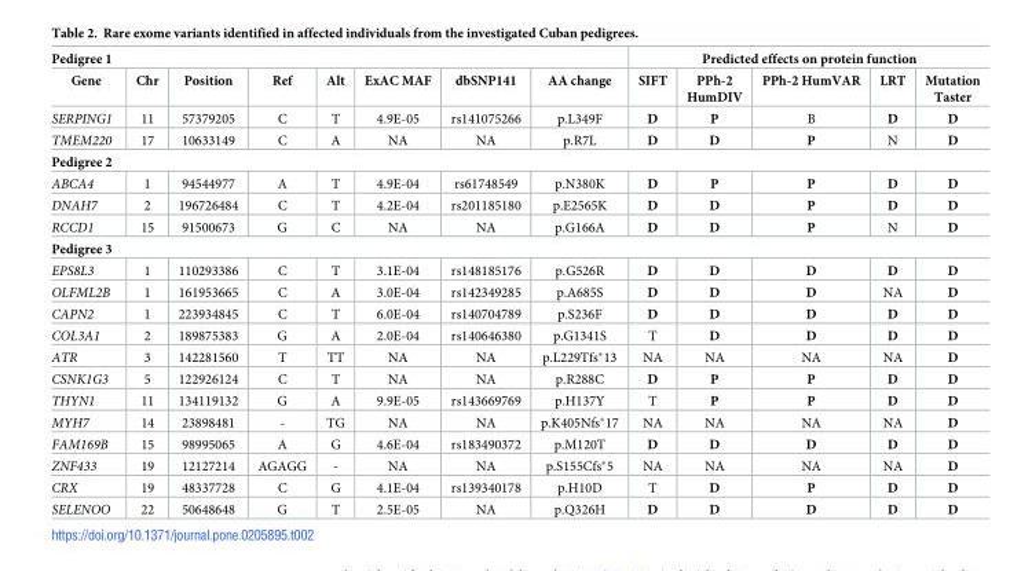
<table><thead><tr><td colspan="8">Pedigree 1</td><td colspan="5">Predicted effects on protein function</td></tr><tr><td>Gene</td><td>Chr</td><td>Position</td><td>Ref</td><td>Alt</td><td>ExAC MAF</td><td>dbSNP141</td><td>AA change</td><td>SIFT</td><td>PPh-2 HumDIV</td><td>PPh-2 HumVAR</td><td>LRT</td><td>Mutation Taster</td></tr></thead><tbody><tr><td>SERPING1</td><td>11</td><td>57379205</td><td>C</td><td>T</td><td>4.9E-05</td><td>rs141075266</td><td>p.L349F</td><td>D</td><td>P</td><td>B</td><td>D</td><td>D</td></tr><tr><td>TMEM220</td><td>17</td><td>10633149</td><td>C</td><td>A</td><td>NA</td><td>NA</td><td>p.R7L</td><td>D</td><td>D</td><td>P</td><td>N</td><td>D</td></tr><tr><td colspan="13">Pedigree 2</td></tr><tr><td>ABCA4</td><td>1</td><td>94544977</td><td>A</td><td>T</td><td>4.9E-04</td><td>rs61748549</td><td>p.N380K</td><td>D</td><td>P</td><td>P</td><td>D</td><td>D</td></tr><tr><td>DNAH7</td><td>2</td><td>196726484</td><td>C</td><td>T</td><td>4.2E-04</td><td>rs201185180</td><td>p.E2565K</td><td>D</td><td>D</td><td>P</td><td>D</td><td>D</td></tr><tr><td>RCCD1</td><td>15</td><td>91500673</td><td>G</td><td>C</td><td>NA</td><td>NA</td><td>p.G166A</td><td>D</td><td>D</td><td>P</td><td>N</td><td>D</td></tr><tr><td colspan="13">Pedigree 3</td></tr><tr><td>EPS8L3</td><td>1</td><td>110293386</td><td>C</td><td>T</td><td>3.1E-04</td><td>rs148185176</td><td>p.G526R</td><td>D</td><td>D</td><td>D</td><td>D</td><td>D</td></tr><tr><td>OLFML2B</td><td>1</td><td>161953665</td><td>C</td><td>A</td><td>3.0E-04</td><td>rs142349285</td><td>p.A685S</td><td>D</td><td>D</td><td>D</td><td>NA</td><td>D</td></tr><tr><td>CAPN2</td><td>1</td><td>223934845</td><td>C</td><td>T</td><td>6.0E-04</td><td>rs140704789</td><td>p.S236F</td><td>D</td><td>D</td><td>D</td><td>D</td><td>D</td></tr><tr><td>COL3A1</td><td>2</td><td>189875383</td><td>G</td><td>A</td><td>2.0E-04</td><td>rs140646380</td><td>p.G1341S</td><td>T</td><td>D</td><td>D</td><td>D</td><td>D</td></tr><tr><td>ATR</td><td>3</td><td>142281560</td><td>T</td><td>TT</td><td>NA</td><td>NA</td><td>p.L229Tfs*13</td><td>NA</td><td>NA</td><td>NA</td><td>NA</td><td>D</td></tr><tr><td>CSNK1G3</td><td>5</td><td>122926124</td><td>C</td><td>T</td><td>NA</td><td>NA</td><td>p.R288C</td><td>D</td><td>P</td><td>P</td><td>D</td><td>D</td></tr><tr><td>THYN1</td><td>11</td><td>134119132</td><td>G</td><td>A</td><td>9.9E-05</td><td>rs143669769</td><td>p.H137Y</td><td>T</td><td>P</td><td>P</td><td>D</td><td>D</td></tr><tr><td>MYH7</td><td>14</td><td>23898481</td><td>-</td><td>TG</td><td>NA</td><td>NA</td><td>p.K405Nfs*17</td><td>NA</td><td>NA</td><td>NA</td><td>NA</td><td>D</td></tr><tr><td>FAM169B</td><td>15</td><td>98995065</td><td>A</td><td>G</td><td>4.6E-04</td><td>rs183490372</td><td>p.M120T</td><td>D</td><td>D</td><td>D</td><td>D</td><td>D</td></tr><tr><td>ZNF433</td><td>19</td><td>12127214</td><td>AGAGG</td><td>-</td><td>NA</td><td>NA</td><td>p.S155Cfs*5</td><td>NA</td><td>NA</td><td>NA</td><td>NA</td><td>D</td></tr><tr><td>CRX</td><td>19</td><td>48337728</td><td>C</td><td>G</td><td>4.1E-04</td><td>rs139340178</td><td>p.H10D</td><td>T</td><td>D</td><td>P</td><td>D</td><td>D</td></tr><tr><td>SELENOO</td><td>22</td><td>50648648</td><td>G</td><td>T</td><td>2.5E-05</td><td>NA</td><td>p.Q326H</td><td>D</td><td>D</td><td>D</td><td>D</td><td>D</td></tr></tbody></table>